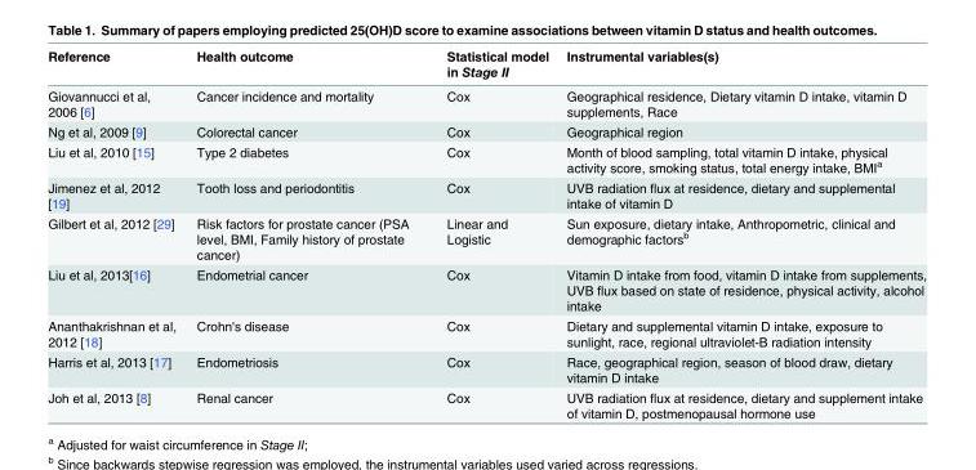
<table><thead><tr><td>Reference</td><td>Health outcome</td><td>Statistical model in Stage II</td><td>Instrumental variables(s)</td></tr></thead><tbody><tr><td>Giovannucci et al, 2006 [6]</td><td>Cancer incidence and mortality</td><td>Cox</td><td>Geographical residence, Dietary vitamin D intake, vitamin D supplements, Race</td></tr><tr><td>Ng et al, 2009 [9]</td><td>Colorectal cancer</td><td>Cox</td><td>Geographical region</td></tr><tr><td>Liu et al, 2010 [15]</td><td>Type 2 diabetes</td><td>Cox</td><td>Month of blood sampling, total vitamin D intake, physical activity score, smoking status, total energy intake, BMI<sup>a</sup></td></tr><tr><td>Jimenez et al, 2012 [19]</td><td>Tooth loss and periodontitis</td><td>Cox</td><td>UVB radiation flux at residence, dietary and supplemental intake of vitamin D</td></tr><tr><td>Gilbert et al, 2012 [29]</td><td>Risk factors for prostate cancer (PSA level, BMI, Family history of prostate cancer)</td><td>Linear and Logistic</td><td>Sun exposure, dietary intake, Anthropometric, clinical and demographic factors<sup>b</sup></td></tr><tr><td>Liu et al, 2013[16]</td><td>Endometrial cancer</td><td>Cox</td><td>Vitamin D intake from food, vitamin D intake from supplements, UVB flux based on state of residence, physical activity, alcohol intake</td></tr><tr><td>Ananthakrishnan et al, 2012 [18]</td><td>Crohn&#x27;s disease</td><td>Cox</td><td>Dietary and supplemental vitamin D intake, exposure to sunlight, race, regional ultraviolet-B radiation intensity</td></tr><tr><td>Harris et al, 2013 [17]</td><td>Endometriosis</td><td>Cox</td><td>Race, geographical region, season of blood draw, dietary vitamin D intake</td></tr><tr><td>Joh et al, 2013 [8]</td><td>Renal cancer</td><td>Cox</td><td>UVB radiation flux at residence, dietary and supplement intake of vitamin D, postmenopausal hormone use</td></tr></tbody></table>